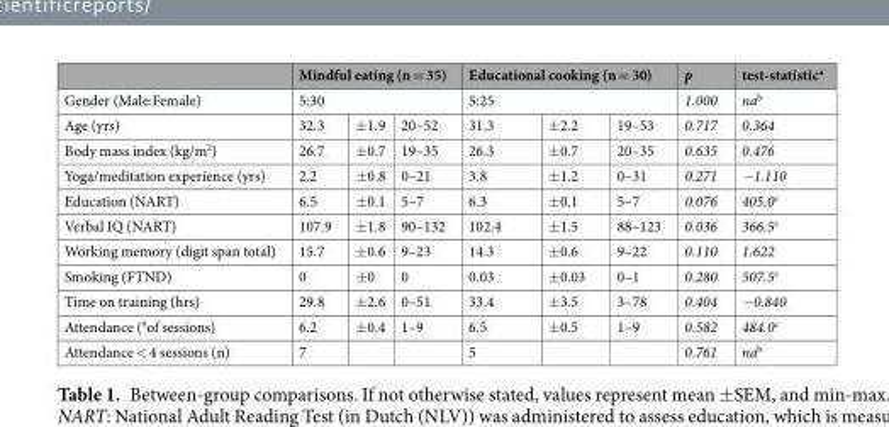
<table><thead><tr><td rowspan="3">Gender (Male:Female) Age (yrs)</td><td rowspan="2" colspan="3">Mindful eating (n = 35) 5:30</td><td rowspan="2" colspan="3">Educational cooking (n = 30) 5:25</td><td rowspan="3">p 1.000 0.717</td><td rowspan="3">test-statistica nab 0.364</td></tr><tr></tr><tr><td>32.3</td><td>±1.9</td><td>20–52</td><td>31.3</td><td>±2.2</td><td>19–53</td></tr></thead><tbody><tr><td>Body mass index (kg/m<sup>2</sup>)</td><td>26.7</td><td>±0.7</td><td>19–35</td><td>26.3</td><td>±0.7</td><td>20–35</td><td>0.635</td><td>0.476</td></tr><tr><td>Yoga/meditation experience (yrs)</td><td>2.2</td><td>±0.8</td><td>0–21</td><td>3.8</td><td>±1.2</td><td>0–31</td><td>0.271</td><td>−1.110</td></tr><tr><td>Education (NART)</td><td>6.5</td><td>±0.1</td><td>5–7</td><td>6.3</td><td>±0.1</td><td>5–7</td><td>0.076</td><td>405.0<sup>c</sup></td></tr><tr><td>Verbal IQ (NART)</td><td>107.9</td><td>±1.8</td><td>90–132</td><td>102.4</td><td>±1.5</td><td>88–123</td><td>0.036</td><td>366.5<sup>c</sup></td></tr><tr><td>Working memory (digit span total)</td><td>15.7</td><td>±0.6</td><td>9–23</td><td>14.3</td><td>±0.6</td><td>9–22</td><td>0.110</td><td>1.622</td></tr><tr><td>Smoking (FTND)</td><td>0</td><td>±0</td><td>0</td><td>0.03</td><td>±0.03</td><td>0–1</td><td>0.280</td><td>507.5<sup>c</sup></td></tr><tr><td>Time on training (hrs)</td><td>29.8</td><td>±2.6</td><td>0–51</td><td>33.4</td><td>±3.5</td><td>3–78</td><td>0.404</td><td>−0.840</td></tr><tr><td>Attendance (<sup>#</sup>of sessions)</td><td>6.2</td><td>±0.4</td><td>1–9</td><td>6.5</td><td>±0.5</td><td>1–9</td><td>0.582</td><td>484.0<sup>c</sup></td></tr><tr><td>Attendance &lt; 4 sessions (n)</td><td>7</td><td></td><td></td><td>5</td><td></td><td></td><td>0.761</td><td>na<sup>b</sup></td></tr></tbody></table>